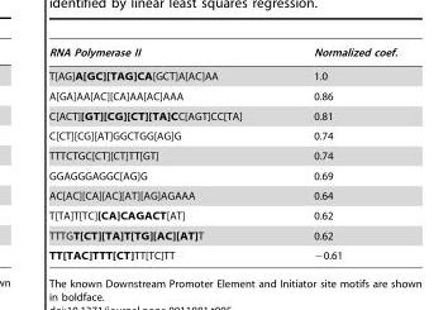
<table><thead><tr><td>RNA Polymerase II</td><td>Normalized coef.</td></tr></thead><tbody><tr><td>T[AG]A[GC][TAG]CA[GCT]A[AC]AA</td><td>1.0</td></tr><tr><td>A[GA]AA[AC][CA]AA[AC]AAA</td><td>0.86</td></tr><tr><td>C[ACT][GT][CG][CT][TA]CC[AGT]CC[TA]</td><td>0.81</td></tr><tr><td>C[CT][CG][AT]GGCTGG[AG]G</td><td>0.74</td></tr><tr><td>TTTCTGC[CT][CT]TT[GT]</td><td>0.74</td></tr><tr><td>GGAGGGAGGC[AG]G</td><td>0.69</td></tr><tr><td>AC[AC][CA][AC][AT][AG]AGAAA</td><td>0.64</td></tr><tr><td>T[TA]T[TC][CA]CAGACT[AT]</td><td>0.62</td></tr><tr><td>TTTGT[CT][TA]T[TG][AC][AT]T</td><td>0.62</td></tr><tr><td>TT[TAC]TTT[CT]TT[TC]TT</td><td>−0.61</td></tr></tbody></table>